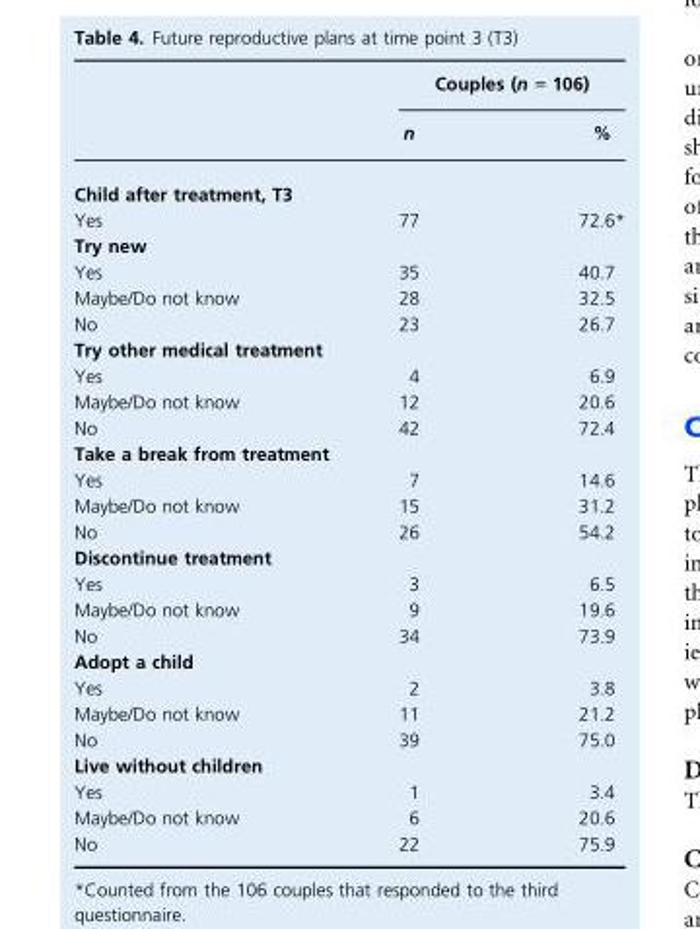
<table><thead><tr><td rowspan="2"></td><td colspan="2">Couples (n = 106)</td></tr><tr><td>n</td><td>%</td></tr></thead><tbody><tr><td colspan="3">Child after treatment, T3</td></tr><tr><td>Yes</td><td>77</td><td>72.6*</td></tr><tr><td colspan="3">Try new</td></tr><tr><td>Yes</td><td>35</td><td>40.7</td></tr><tr><td>Maybe/Do not know</td><td>28</td><td>32.5</td></tr><tr><td>No</td><td>23</td><td>26.7</td></tr><tr><td colspan="3">Try other medical treatment</td></tr><tr><td>Yes</td><td>4</td><td>6.9</td></tr><tr><td>Maybe/Do not know</td><td>12</td><td>20.6</td></tr><tr><td>No</td><td>42</td><td>72.4</td></tr><tr><td colspan="3">Take a break from treatment</td></tr><tr><td>Yes</td><td>7</td><td>14.6</td></tr><tr><td>Maybe/Do not know</td><td>15</td><td>31.2</td></tr><tr><td>No</td><td>26</td><td>54.2</td></tr><tr><td colspan="3">Discontinue treatment</td></tr><tr><td>Yes</td><td>3</td><td>6.5</td></tr><tr><td>Maybe/Do not know</td><td>9</td><td>19.6</td></tr><tr><td>No</td><td>34</td><td>73.9</td></tr><tr><td colspan="3">Adopt a child</td></tr><tr><td>Yes</td><td>2</td><td>3.8</td></tr><tr><td>Maybe/Do not know</td><td>11</td><td>21.2</td></tr><tr><td>No</td><td>39</td><td>75.0</td></tr><tr><td colspan="3">Live without children</td></tr><tr><td>Yes</td><td>1</td><td>3.4</td></tr><tr><td>Maybe/Do not know</td><td>6</td><td>20.6</td></tr><tr><td>No</td><td>22</td><td>75.9</td></tr></tbody></table>